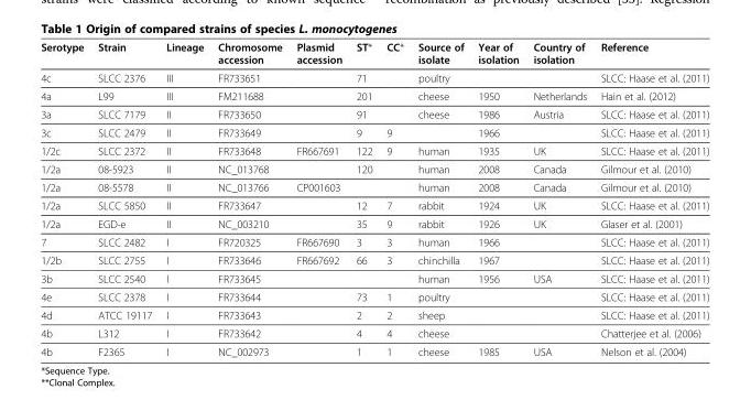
<table><thead><tr><td>Serotype</td><td>Strain</td><td>Lineage</td><td>Chromosome accession</td><td>Plasmid accession</td><td>ST*</td><td>CC*</td><td>Source of isolate</td><td>Year of isolation</td><td>Country of isolation</td><td>Reference</td></tr></thead><tbody><tr><td>4c</td><td>SLCC 2376</td><td>III</td><td>FR733651</td><td></td><td>71</td><td></td><td>poultry</td><td></td><td></td><td>SLCC: Haase et al. (2011)</td></tr><tr><td>4a</td><td>L99</td><td>III</td><td>FM211688</td><td></td><td>201</td><td></td><td>cheese</td><td>1950</td><td>Netherlands</td><td>Hain et al. (2012)</td></tr><tr><td>3a</td><td>SLCC 7179</td><td>II</td><td>FR733650</td><td></td><td>91</td><td></td><td>cheese</td><td>1986</td><td>Austria</td><td>SLCC: Haase et al. (2011)</td></tr><tr><td>3c</td><td>SLCC 2479</td><td>II</td><td>FR733649</td><td></td><td>9</td><td>9</td><td></td><td>1966</td><td></td><td>SLCC: Haase et al. (2011)</td></tr><tr><td>1/2c</td><td>SLCC 2372</td><td>II</td><td>FR733648</td><td>FR667691</td><td>122</td><td>9</td><td>human</td><td>1935</td><td>UK</td><td>SLCC: Haase et al. (2011)</td></tr><tr><td>1/2a</td><td>08-5923</td><td>II</td><td>NC_013768</td><td></td><td>120</td><td></td><td>human</td><td>2008</td><td>Canada</td><td>Gilmour et al. (2010)</td></tr><tr><td>1/2a</td><td>08-5578</td><td>II</td><td>NC_013766</td><td>CP001603</td><td></td><td></td><td>human</td><td>2008</td><td>Canada</td><td>Gilmour et al. (2010)</td></tr><tr><td>1/2a</td><td>SLCC 5850</td><td>II</td><td>FR733647</td><td></td><td>12</td><td>7</td><td>rabbit</td><td>1924</td><td>UK</td><td>SLCC: Haase et al. (2011)</td></tr><tr><td>1/2a</td><td>EGD-e</td><td>II</td><td>NC_003210</td><td></td><td>35</td><td>9</td><td>rabbit</td><td>1926</td><td>UK</td><td>Glaser et al. (2001)</td></tr><tr><td>7</td><td>SLCC 2482</td><td>I</td><td>FR720325</td><td>FR667690</td><td>3</td><td>3</td><td>human</td><td>1966</td><td></td><td>SLCC: Haase et al. (2011)</td></tr><tr><td>1/2b</td><td>SLCC 2755</td><td>I</td><td>FR733646</td><td>FR667692</td><td>66</td><td>3</td><td>chinchilla</td><td>1967</td><td></td><td>SLCC: Haase et al. (2011)</td></tr><tr><td>3b</td><td>SLCC 2540</td><td>I</td><td>FR733645</td><td></td><td></td><td></td><td>human</td><td>1956</td><td>USA</td><td>SLCC: Haase et al. (2011)</td></tr><tr><td>4e</td><td>SLCC 2378</td><td>I</td><td>FR733644</td><td></td><td>73</td><td>1</td><td>poultry</td><td></td><td></td><td>SLCC: Haase et al. (2011)</td></tr><tr><td>4d</td><td>ATCC 19117</td><td>I</td><td>FR733643</td><td></td><td>2</td><td>2</td><td>sheep</td><td></td><td></td><td>SLCC: Haase et al. (2011)</td></tr><tr><td>4b</td><td>L312</td><td>I</td><td>FR733642</td><td></td><td>4</td><td>4</td><td>cheese</td><td></td><td></td><td>Chatterjee et al. (2006)</td></tr><tr><td>4b</td><td>F2365</td><td>I</td><td>NC_002973</td><td></td><td>1</td><td>1</td><td>cheese</td><td>1985</td><td>USA</td><td>Nelson et al. (2004)</td></tr></tbody></table>